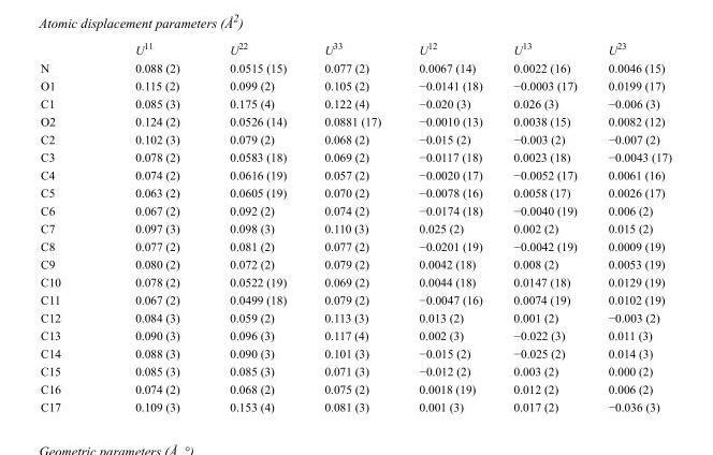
<table><thead><tr><td></td><td>U<sup>11</sup></td><td>U<sup>22</sup></td><td>U<sup>33</sup></td><td>U<sup>12</sup></td><td>U<sup>13</sup></td><td>U<sup>23</sup></td></tr></thead><tbody><tr><td>N</td><td>0.088 (2)</td><td>0.0515 (15)</td><td>0.077 (2)</td><td>0.0067 (14)</td><td>0.0022 (16)</td><td>0.0046 (15)</td></tr><tr><td>O1</td><td>0.115 (2)</td><td>0.099 (2)</td><td>0.105 (2)</td><td>−0.0141 (18)</td><td>−0.0003 (17)</td><td>0.0199 (17)</td></tr><tr><td>C1</td><td>0.085 (3)</td><td>0.175 (4)</td><td>0.122 (4)</td><td>−0.020 (3)</td><td>0.026 (3)</td><td>−0.006 (3)</td></tr><tr><td>O2</td><td>0.124 (2)</td><td>0.0526 (14)</td><td>0.0881 (17)</td><td>−0.0010 (13)</td><td>0.0038 (15)</td><td>0.0082 (12)</td></tr><tr><td>C2</td><td>0.102 (3)</td><td>0.079 (2)</td><td>0.068 (2)</td><td>−0.015 (2)</td><td>−0.003 (2)</td><td>−0.007 (2)</td></tr><tr><td>C3</td><td>0.078 (2)</td><td>0.0583 (18)</td><td>0.069 (2)</td><td>−0.0117 (18)</td><td>0.0023 (18)</td><td>−0.0043 (17)</td></tr><tr><td>C4</td><td>0.074 (2)</td><td>0.0616 (19)</td><td>0.057 (2)</td><td>−0.0020 (17)</td><td>−0.0052 (17)</td><td>0.0061 (16)</td></tr><tr><td>C5</td><td>0.063 (2)</td><td>0.0605 (19)</td><td>0.070 (2)</td><td>−0.0078 (16)</td><td>0.0058 (17)</td><td>0.0026 (17)</td></tr><tr><td>C6</td><td>0.067 (2)</td><td>0.092 (2)</td><td>0.074 (2)</td><td>−0.0174 (18)</td><td>−0.0040 (19)</td><td>0.006 (2)</td></tr><tr><td>C7</td><td>0.097 (3)</td><td>0.098 (3)</td><td>0.110 (3)</td><td>0.025 (2)</td><td>0.002 (2)</td><td>0.015 (2)</td></tr><tr><td>C8</td><td>0.077 (2)</td><td>0.081 (2)</td><td>0.077 (2)</td><td>−0.0201 (19)</td><td>−0.0042 (19)</td><td>0.0009 (19)</td></tr><tr><td>C9</td><td>0.080 (2)</td><td>0.072 (2)</td><td>0.079 (2)</td><td>0.0042 (18)</td><td>0.008 (2)</td><td>0.0053 (19)</td></tr><tr><td>C10</td><td>0.078 (2)</td><td>0.0522 (19)</td><td>0.069 (2)</td><td>0.0044 (18)</td><td>0.0147 (18)</td><td>0.0129 (19)</td></tr><tr><td>C11</td><td>0.067 (2)</td><td>0.0499 (18)</td><td>0.079 (2)</td><td>−0.0047 (16)</td><td>0.0074 (19)</td><td>0.0102 (19)</td></tr><tr><td>C12</td><td>0.084 (3)</td><td>0.059 (2)</td><td>0.113 (3)</td><td>0.013 (2)</td><td>0.001 (2)</td><td>−0.003 (2)</td></tr><tr><td>C13</td><td>0.090 (3)</td><td>0.096 (3)</td><td>0.117 (4)</td><td>0.002 (3)</td><td>−0.022 (3)</td><td>0.011 (3)</td></tr><tr><td>C14</td><td>0.088 (3)</td><td>0.090 (3)</td><td>0.101 (3)</td><td>−0.015 (2)</td><td>−0.025 (2)</td><td>0.014 (3)</td></tr><tr><td>C15</td><td>0.085 (3)</td><td>0.085 (3)</td><td>0.071 (3)</td><td>−0.012 (2)</td><td>0.003 (2)</td><td>0.000 (2)</td></tr><tr><td>C16</td><td>0.074 (2)</td><td>0.068 (2)</td><td>0.075 (2)</td><td>0.0018 (19)</td><td>0.012 (2)</td><td>0.006 (2)</td></tr><tr><td>C17</td><td>0.109 (3)</td><td>0.153 (4)</td><td>0.081 (3)</td><td>0.001 (3)</td><td>0.017 (2)</td><td>−0.036 (3)</td></tr></tbody></table>